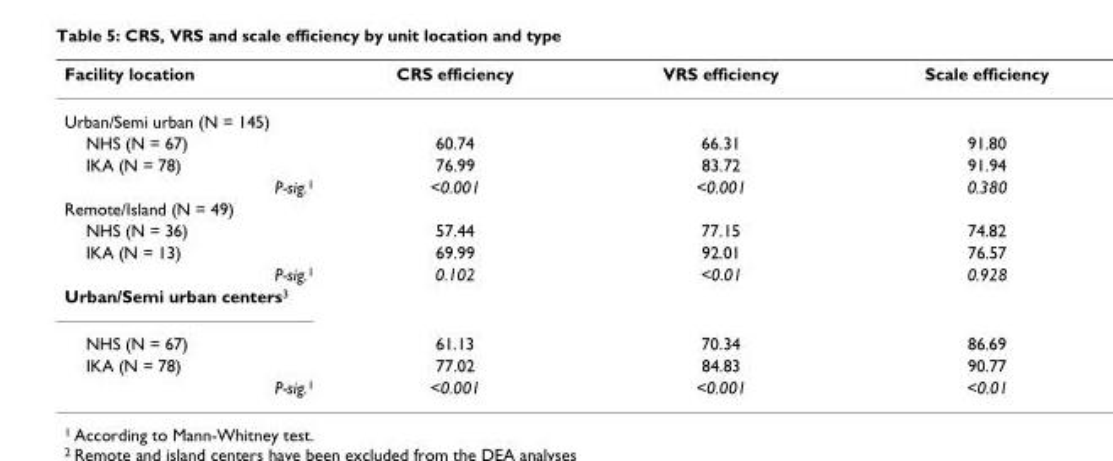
<table><thead><tr><td>Facility location</td><td>CRS efficiency</td><td>VRS efficiency</td><td>Scale efficiency</td></tr></thead><tbody><tr><td colspan="4">Urban/Semi urban (N = 145)</td></tr><tr><td>NHS (N = 67)</td><td>60.74</td><td>66.31</td><td>91.80</td></tr><tr><td>IKA (N = 78)</td><td>76.99</td><td>83.72</td><td>91.94</td></tr><tr><td>P-sig.<sup>1</sup></td><td>&lt;0.001</td><td>&lt;0.001</td><td>0.380</td></tr><tr><td colspan="4">Remote/Island (N = 49)</td></tr><tr><td>NHS (N = 36)</td><td>57.44</td><td>77.15</td><td>74.82</td></tr><tr><td>IKA (N = 13)</td><td>69.99</td><td>92.01</td><td>76.57</td></tr><tr><td>P-sig.<sup>1</sup></td><td>0.102</td><td>&lt;0.01</td><td>0.928</td></tr><tr><td colspan="4">Urban/Semi urban centers<sup>3</sup></td></tr><tr><td>NHS (N = 67)</td><td>61.13</td><td>70.34</td><td>86.69</td></tr><tr><td>IKA (N = 78)</td><td>77.02</td><td>84.83</td><td>90.77</td></tr><tr><td>P-sig.<sup>1</sup></td><td>&lt;0.001</td><td>&lt;0.001</td><td>&lt;0.01</td></tr></tbody></table>